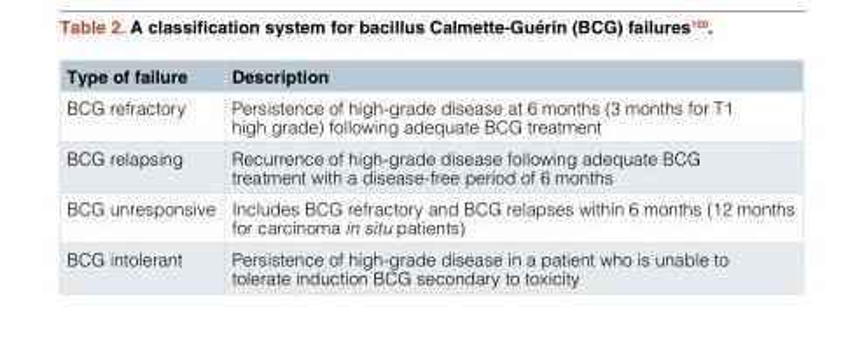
<table><thead><tr><td>Type of failure</td><td>Description</td></tr></thead><tbody><tr><td>BCG refractory</td><td>Persistence of high-grade disease at 6 months (3 months for T1 high grade) following adequate BCG treatment</td></tr><tr><td>BCG relapsing</td><td>Recurrence of high-grade disease following adequate BCG treatment with a disease-free period of 6 months</td></tr><tr><td>BCG unresponsive</td><td>Includes BCG refractory and BCG relapses within 6 months (12 months for carcinoma in situ patients)</td></tr><tr><td>BCG intolerant</td><td>Persistence of high-grade disease in a patient who is unable to tolerate induction BCG secondary to toxicity</td></tr></tbody></table>